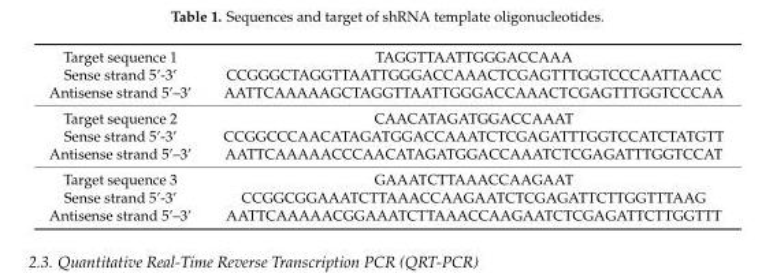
<table><tbody><tr><td>Target sequence 1</td><td>TAGGTTAATTGGGACCAAA</td></tr><tr><td>Sense strand 5’-3’</td><td>CCGGGCTAGGTTAATTGGGACCAAACTCGAGTTTGGTCCCAATTAACC</td></tr><tr><td>Antisense strand 5’–3’</td><td>AATTCAAAAAGCTAGGTTAATTGGGACCAAACTCGAGTTTGGTCCCAA</td></tr><tr><td>Target sequence 2</td><td>CAACATAGATGGACCAAAT</td></tr><tr><td>Sense strand 5’-3’</td><td>CCGGCCCAACATAGATGGACCAAATCTCGAGATTTGGTCCATCTATGTT</td></tr><tr><td>Antisense strand 5’–3’</td><td>AATTCAAAAACCCAACATAGATGGACCAAATCTCGAGATTTGGTCCAT</td></tr><tr><td>Target sequence 3</td><td>GAAATCTTAAACCAAGAAT</td></tr><tr><td>Sense strand 5’-3’</td><td>CCGGCGGAAATCTTAAACCAAGAATCTCGAGATTCTTGGTTTAAG</td></tr><tr><td>Antisense strand 5’–3’</td><td>AATTCAAAAACGGAAATCTTAAACCAAGAATCTCGAGATTCTTGGTTT</td></tr></tbody></table>